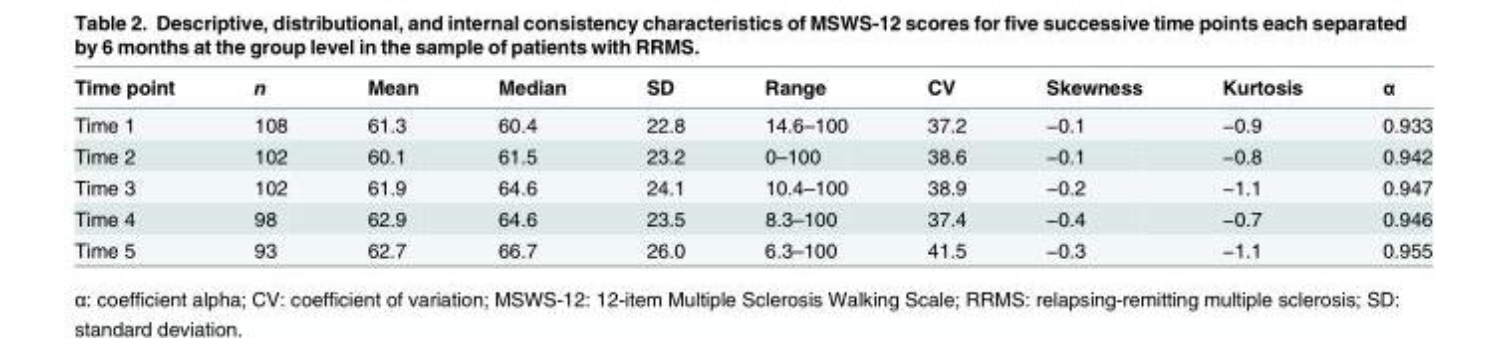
<table><thead><tr><td>Time point</td><td>n</td><td>Mean</td><td>Median</td><td>SD</td><td>Range</td><td>CV</td><td>Skewness</td><td>Kurtosis</td><td>α</td></tr></thead><tbody><tr><td>Time 1</td><td>108</td><td>61.3</td><td>60.4</td><td>22.8</td><td>14.6–100</td><td>37.2</td><td>−0.1</td><td>−0.9</td><td>0.933</td></tr><tr><td>Time 2</td><td>102</td><td>60.1</td><td>61.5</td><td>23.2</td><td>0–100</td><td>38.6</td><td>−0.1</td><td>−0.8</td><td>0.942</td></tr><tr><td>Time 3</td><td>102</td><td>61.9</td><td>64.6</td><td>24.1</td><td>10.4–100</td><td>38.9</td><td>−0.2</td><td>−1.1</td><td>0.947</td></tr><tr><td>Time 4</td><td>98</td><td>62.9</td><td>64.6</td><td>23.5</td><td>8.3–100</td><td>37.4</td><td>−0.4</td><td>−0.7</td><td>0.946</td></tr><tr><td>Time 5</td><td>93</td><td>62.7</td><td>66.7</td><td>26.0</td><td>6.3–100</td><td>41.5</td><td>−0.3</td><td>−1.1</td><td>0.955</td></tr></tbody></table>